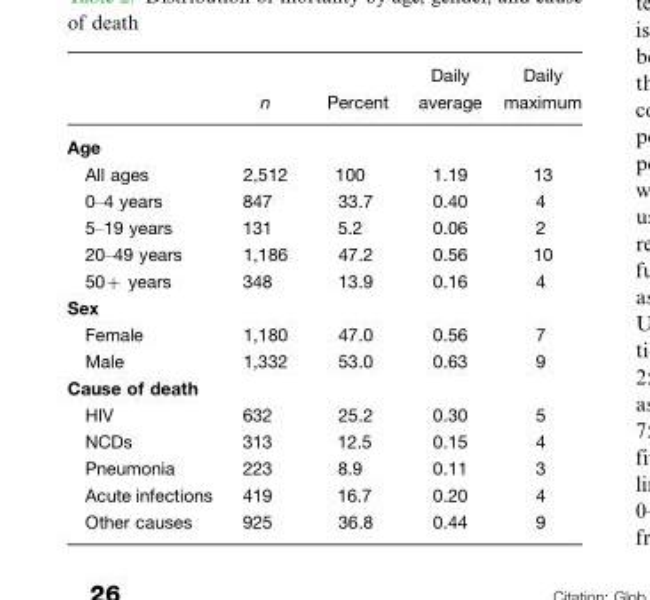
<table><thead><tr><td></td><td>n</td><td>Percent</td><td>Daily average</td><td>Daily maximum</td></tr></thead><tbody><tr><td colspan="5">Age</td></tr><tr><td>All ages</td><td>2,512</td><td>100</td><td>1.19</td><td>13</td></tr><tr><td>0–4 years</td><td>847</td><td>33.7</td><td>0.40</td><td>4</td></tr><tr><td>5–19 years</td><td>131</td><td>5.2</td><td>0.06</td><td>2</td></tr><tr><td>20–49 years</td><td>1,186</td><td>47.2</td><td>0.56</td><td>10</td></tr><tr><td>50+ years</td><td>348</td><td>13.9</td><td>0.16</td><td>4</td></tr><tr><td colspan="5">Sex</td></tr><tr><td>Female</td><td>1,180</td><td>47.0</td><td>0.56</td><td>7</td></tr><tr><td>Male</td><td>1,332</td><td>53.0</td><td>0.63</td><td>9</td></tr><tr><td colspan="5">Cause of death</td></tr><tr><td>HIV</td><td>632</td><td>25.2</td><td>0.30</td><td>5</td></tr><tr><td>NCDs</td><td>313</td><td>12.5</td><td>0.15</td><td>4</td></tr><tr><td>Pneumonia</td><td>223</td><td>8.9</td><td>0.11</td><td>3</td></tr><tr><td>Acute infections</td><td>419</td><td>16.7</td><td>0.20</td><td>4</td></tr><tr><td>Other causes</td><td>925</td><td>36.8</td><td>0.44</td><td>9</td></tr></tbody></table>